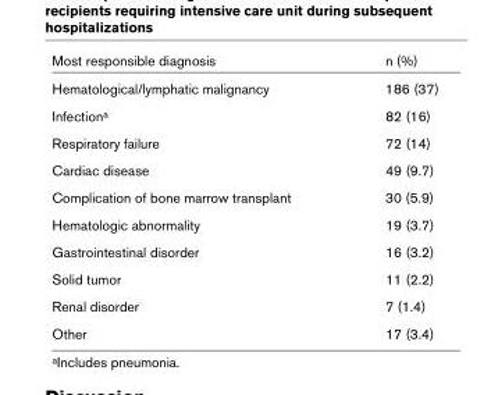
<table><thead><tr><td>Most responsible diagnosis</td><td>n (%)</td></tr></thead><tbody><tr><td>Hematological/lymphatic malignancy</td><td>186 (37)</td></tr><tr><td>Infection<sup>a</sup></td><td>82 (16)</td></tr><tr><td>Respiratory failure</td><td>72 (14)</td></tr><tr><td>Cardiac disease</td><td>49 (9.7)</td></tr><tr><td>Complication of bone marrow transplant</td><td>30 (5.9)</td></tr><tr><td>Hematologic abnormality</td><td>19 (3.7)</td></tr><tr><td>Gastrointestinal disorder</td><td>16 (3.2)</td></tr><tr><td>Solid tumor</td><td>11 (2.2)</td></tr><tr><td>Renal disorder</td><td>7 (1.4)</td></tr><tr><td>Other</td><td>17 (3.4)</td></tr></tbody></table>